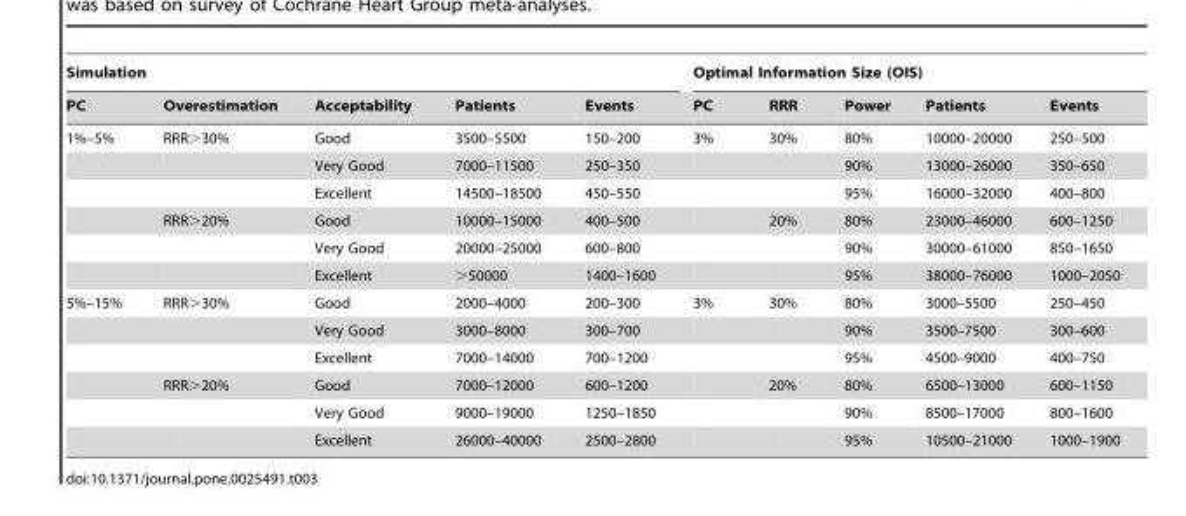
<table><thead><tr><td colspan="5">Simulation</td><td colspan="5">Optimal Information Size (OIS)</td></tr><tr><td>PC</td><td>Overestimation</td><td>Acceptability</td><td>Patients</td><td>Events</td><td>PC</td><td>RRR</td><td>Power</td><td>Patients</td><td>Events</td></tr></thead><tbody><tr><td rowspan="6">1%–5%</td><td>RRR&gt;30%</td><td>Good</td><td>3500–5500</td><td>150–200</td><td>3%</td><td>30%</td><td>80%</td><td>10000–20000</td><td>250–500</td></tr><tr><td></td><td>Very Good</td><td>7000–11500</td><td>250–350</td><td></td><td></td><td>90%</td><td>13000–26000</td><td>350–650</td></tr><tr><td></td><td>Excellent</td><td>14500–18500</td><td>450–550</td><td></td><td></td><td>95%</td><td>16000–32000</td><td>400–800</td></tr><tr><td>RRR&gt;20%</td><td>Good</td><td>10000–15000</td><td>400–500</td><td></td><td>20%</td><td>80%</td><td>23000–46000</td><td>600–1250</td></tr><tr><td></td><td>Very Good</td><td>20000–25000</td><td>600–800</td><td></td><td></td><td>90%</td><td>30000–61000</td><td>850–1650</td></tr><tr><td></td><td>Excellent</td><td>&gt;50000</td><td>1400–1600</td><td></td><td></td><td>95%</td><td>38000–76000</td><td>1000–2050</td></tr><tr><td rowspan="6">5%–15%</td><td>RRR&gt;30%</td><td>Good</td><td>2000–4000</td><td>200–300</td><td>3%</td><td>30%</td><td>80%</td><td>3000–5500</td><td>250–450</td></tr><tr><td></td><td>Very Good</td><td>3000–8000</td><td>300–700</td><td></td><td></td><td>90%</td><td>3500–7500</td><td>300–600</td></tr><tr><td></td><td>Excellent</td><td>7000–14000</td><td>700–1200</td><td></td><td></td><td>95%</td><td>4500–9000</td><td>400–750</td></tr><tr><td>RRR&gt;20%</td><td>Good</td><td>7000–12000</td><td>600–1200</td><td></td><td>20%</td><td>80%</td><td>6500–13000</td><td>600–1150</td></tr><tr><td></td><td>Very Good</td><td>9000–19000</td><td>1250–1850</td><td></td><td></td><td>90%</td><td>8500–17000</td><td>800–1600</td></tr><tr><td></td><td>Excellent</td><td>26000–40000</td><td>2500–2800</td><td></td><td></td><td>95%</td><td>10500–21000</td><td>1000–1900</td></tr></tbody></table>